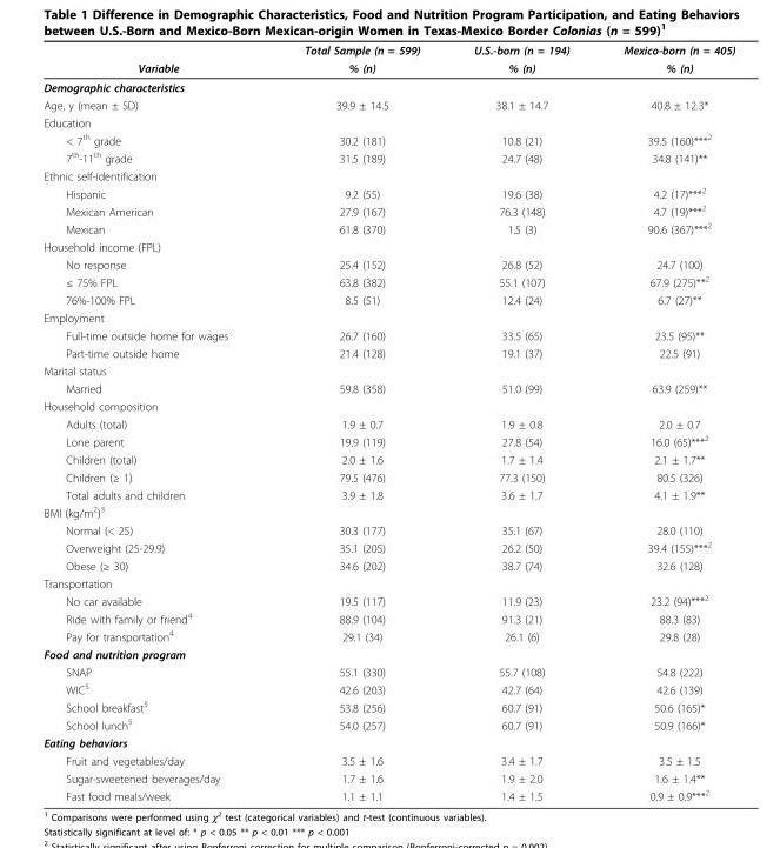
<table><thead><tr><td rowspan="2">Variable</td><td rowspan="2">Total Sample (n = 599) % (n)</td><td rowspan="2">U.S.-born (n = 194) % (n)</td><td rowspan="2">Mexico-born (n = 405) % (n)</td></tr><tr></tr></thead><tbody><tr><td colspan="4">Demographic characteristics</td></tr><tr><td>Age, y (mean ± SD)</td><td>39.9 ± 14.5</td><td>38.1 ± 14.7</td><td>40.8 ± 12.3*</td></tr><tr><td colspan="4">Education</td></tr><tr><td>&lt; 7<sup>th</sup> grade</td><td>30.2 (181)</td><td>10.8 (21)</td><td>39.5 (160)***<sup>2</sup></td></tr><tr><td>7<sup>th</sup>-11<sup>th</sup> grade</td><td>31.5 (189)</td><td>24.7 (48)</td><td>34.8 (141)**</td></tr><tr><td colspan="4">Ethnic self-identification</td></tr><tr><td>Hispanic</td><td>9.2 (55)</td><td>19.6 (38)</td><td>4.2 (17)***<sup>2</sup></td></tr><tr><td>Mexican American</td><td>27.9 (167)</td><td>76.3 (148)</td><td>4.7 (19)***<sup>2</sup></td></tr><tr><td>Mexican</td><td>61.8 (370)</td><td>1.5 (3)</td><td>90.6 (367)***<sup>2</sup></td></tr><tr><td colspan="4">Household income (FPL)</td></tr><tr><td>No response</td><td>25.4 (152)</td><td>26.8 (52)</td><td>24.7 (100)</td></tr><tr><td>≤ 75% FPL</td><td>63.8 (382)</td><td>55.1 (107)</td><td>67.9 (275)**<sup>2</sup></td></tr><tr><td>76%-100% FPL</td><td>8.5 (51)</td><td>12.4 (24)</td><td>6.7 (27)**</td></tr><tr><td colspan="4">Employment</td></tr><tr><td>Full-time outside home for wages</td><td>26.7 (160)</td><td>33.5 (65)</td><td>23.5 (95)**</td></tr><tr><td>Part-time outside home</td><td>21.4 (128)</td><td>19.1 (37)</td><td>22.5 (91)</td></tr><tr><td colspan="4">Marital status</td></tr><tr><td>Married</td><td>59.8 (358)</td><td>51.0 (99)</td><td>63.9 (259)**</td></tr><tr><td colspan="4">Household composition</td></tr><tr><td>Adults (total)</td><td>1.9 ± 0.7</td><td>1.9 ± 0.8</td><td>2.0 ± 0.7</td></tr><tr><td>Lone parent</td><td>19.9 (119)</td><td>27.8 (54)</td><td>16.0 (65)***<sup>2</sup></td></tr><tr><td>Children (total)</td><td>2.0 ± 1.6</td><td>1.7 ± 1.4</td><td>2.1 ± 1.7**</td></tr><tr><td>Children (≥ 1)</td><td>79.5 (476)</td><td>77.3 (150)</td><td>80.5 (326)</td></tr><tr><td>Total adults and children</td><td>3.9 ± 1.8</td><td>3.6 ± 1.7</td><td>4.1 ± 1.9**</td></tr><tr><td colspan="4">BMI (kg/m<sup>2</sup>)<sup>3</sup></td></tr><tr><td>Normal (&lt; 25)</td><td>30.3 (177)</td><td>35.1 (67)</td><td>28.0 (110)</td></tr><tr><td>Overweight (25-29.9)</td><td>35.1 (205)</td><td>26.2 (50)</td><td>39.4 (155)***<sup>2</sup></td></tr><tr><td>Obese (≥ 30)</td><td>34.6 (202)</td><td>38.7 (74)</td><td>32.6 (128)</td></tr><tr><td colspan="4">Transportation</td></tr><tr><td>No car available</td><td>19.5 (117)</td><td>11.9 (23)</td><td>23.2 (94)***<sup>2</sup></td></tr><tr><td>Ride with family or friend<sup>4</sup></td><td>88.9 (104)</td><td>91.3 (21)</td><td>88.3 (83)</td></tr><tr><td>Pay for transportation<sup>4</sup></td><td>29.1 (34)</td><td>26.1 (6)</td><td>29.8 (28)</td></tr><tr><td colspan="4">Food and nutrition program</td></tr><tr><td>SNAP</td><td>55.1 (330)</td><td>55.7 (108)</td><td>54.8 (222)</td></tr><tr><td>WIC<sup>5</sup></td><td>42.6 (203)</td><td>42.7 (64)</td><td>42.6 (139)</td></tr><tr><td>School breakfast<sup>5</sup></td><td>53.8 (256)</td><td>60.7 (91)</td><td>50.6 (165)*</td></tr><tr><td>School lunch<sup>5</sup></td><td>54.0 (257)</td><td>60.7 (91)</td><td>50.9 (166)*</td></tr><tr><td colspan="4">Eating behaviors</td></tr><tr><td>Fruit and vegetables/day</td><td>3.5 ± 1.6</td><td>3.4 ± 1.7</td><td>3.5 ± 1.5</td></tr><tr><td>Sugar-sweetened beverages/day</td><td>1.7 ± 1.6</td><td>1.9 ± 2.0</td><td>1.6 ± 1.4**</td></tr><tr><td>Fast food meals/week</td><td>1.1 ± 1.1</td><td>1.4 ± 1.5</td><td>0.9 ± 0.9***<sup>2</sup></td></tr></tbody></table>